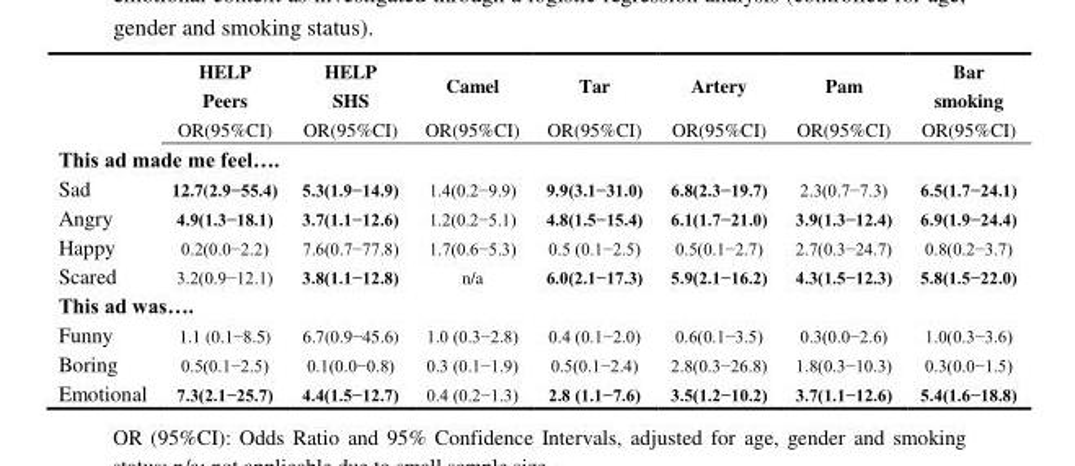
<table><thead><tr><td rowspan="2"></td><td rowspan="2">HELP Peers OR(95%CI)</td><td rowspan="2">HELP SHS OR(95%CI)</td><td rowspan="2">Camel OR(95%CI)</td><td rowspan="2">Tar OR(95%CI)</td><td rowspan="2">Artery OR(95%CI)</td><td rowspan="2">Pam OR(95%CI)</td><td rowspan="2">Bar smoking OR(95%CI)</td></tr><tr></tr></thead><tbody><tr><td colspan="8">This ad made me feel….</td></tr><tr><td>Sad</td><td>12.7(2.9−55.4)</td><td>5.3(1.9−14.9)</td><td>1.4(0.2−9.9)</td><td>9.9(3.1−31.0)</td><td>6.8(2.3−19.7)</td><td>2.3(0.7−7.3)</td><td>6.5(1.7−24.1)</td></tr><tr><td>Angry</td><td>4.9(1.3−18.1)</td><td>3.7(1.1−12.6)</td><td>1.2(0.2−5.1)</td><td>4.8(1.5−15.4)</td><td>6.1(1.7−21.0)</td><td>3.9(1.3−12.4)</td><td>6.9(1.9−24.4)</td></tr><tr><td>Happy</td><td>0.2(0.0−2.2)</td><td>7.6(0.7−77.8)</td><td>1.7(0.6−5.3)</td><td>0.5 (0.1−2.5)</td><td>0.5(0.1−2.7)</td><td>2.7(0.3−24.7)</td><td>0.8(0.2−3.7)</td></tr><tr><td>Scared</td><td>3.2(0.9−12.1)</td><td>3.8(1.1−12.8)</td><td>n/a</td><td>6.0(2.1−17.3)</td><td>5.9(2.1−16.2)</td><td>4.3(1.5−12.3)</td><td>5.8(1.5−22.0)</td></tr><tr><td colspan="8">This ad was….</td></tr><tr><td>Funny</td><td>1.1 (0.1−8.5)</td><td>6.7(0.9−45.6)</td><td>1.0 (0.3−2.8)</td><td>0.4 (0.1−2.0)</td><td>0.6(0.1−3.5)</td><td>0.3(0.0−2.6)</td><td>1.0(0.3−3.6)</td></tr><tr><td>Boring</td><td>0.5(0.1−2.5)</td><td>0.1(0.0−0.8)</td><td>0.3 (0.1−1.9)</td><td>0.5(0.1−2.4)</td><td>2.8(0.3−26.8)</td><td>1.8(0.3−10.3)</td><td>0.3(0.0−1.5)</td></tr><tr><td>Emotional</td><td>7.3(2.1−25.7)</td><td>4.4(1.5−12.7)</td><td>0.4 (0.2−1.3)</td><td>2.8 (1.1−7.6)</td><td>3.5(1.2−10.2)</td><td>3.7(1.1−12.6)</td><td>5.4(1.6−18.8)</td></tr></tbody></table>